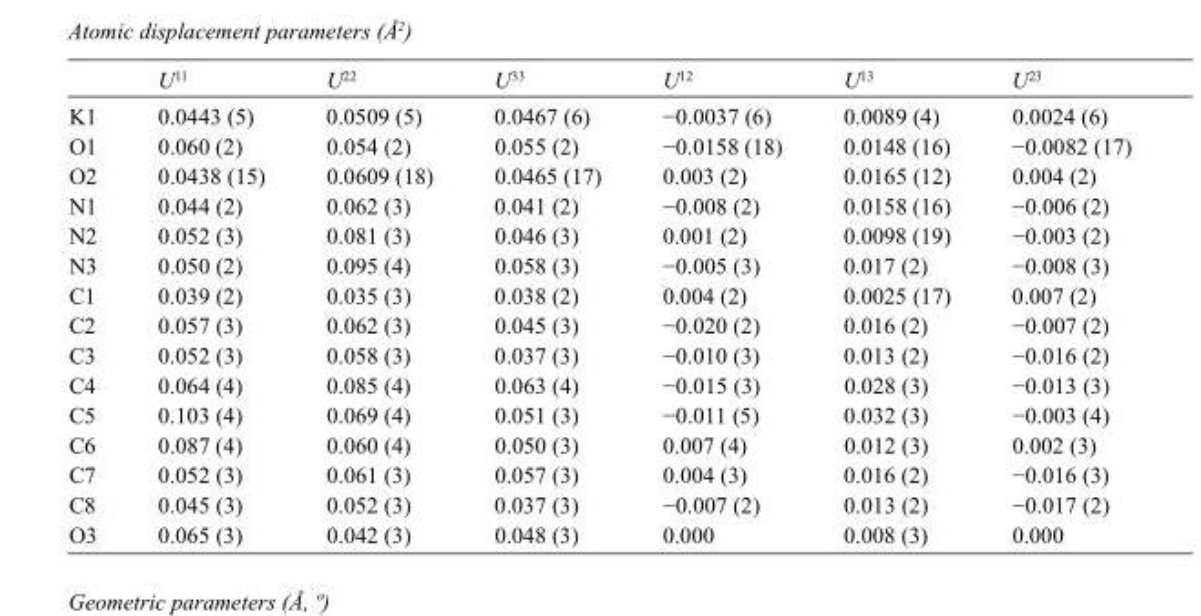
<table><thead><tr><td></td><td>U<sup>11</sup></td><td>U<sup>22</sup></td><td>U<sup>33</sup></td><td>U<sup>12</sup></td><td>U<sup>13</sup></td><td>U<sup>23</sup></td></tr></thead><tbody><tr><td>K1</td><td>0.0443 (5)</td><td>0.0509 (5)</td><td>0.0467 (6)</td><td>−0.0037 (6)</td><td>0.0089 (4)</td><td>0.0024 (6)</td></tr><tr><td>O1</td><td>0.060 (2)</td><td>0.054 (2)</td><td>0.055 (2)</td><td>−0.0158 (18)</td><td>0.0148 (16)</td><td>−0.0082 (17)</td></tr><tr><td>O2</td><td>0.0438 (15)</td><td>0.0609 (18)</td><td>0.0465 (17)</td><td>0.003 (2)</td><td>0.0165 (12)</td><td>0.004 (2)</td></tr><tr><td>N1</td><td>0.044 (2)</td><td>0.062 (3)</td><td>0.041 (2)</td><td>−0.008 (2)</td><td>0.0158 (16)</td><td>−0.006 (2)</td></tr><tr><td>N2</td><td>0.052 (3)</td><td>0.081 (3)</td><td>0.046 (3)</td><td>0.001 (2)</td><td>0.0098 (19)</td><td>−0.003 (2)</td></tr><tr><td>N3</td><td>0.050 (2)</td><td>0.095 (4)</td><td>0.058 (3)</td><td>−0.005 (3)</td><td>0.017 (2)</td><td>−0.008 (3)</td></tr><tr><td>C1</td><td>0.039 (2)</td><td>0.035 (3)</td><td>0.038 (2)</td><td>0.004 (2)</td><td>0.0025 (17)</td><td>0.007 (2)</td></tr><tr><td>C2</td><td>0.057 (3)</td><td>0.062 (3)</td><td>0.045 (3)</td><td>−0.020 (2)</td><td>0.016 (2)</td><td>−0.007 (2)</td></tr><tr><td>C3</td><td>0.052 (3)</td><td>0.058 (3)</td><td>0.037 (3)</td><td>−0.010 (3)</td><td>0.013 (2)</td><td>−0.016 (2)</td></tr><tr><td>C4</td><td>0.064 (4)</td><td>0.085 (4)</td><td>0.063 (4)</td><td>−0.015 (3)</td><td>0.028 (3)</td><td>−0.013 (3)</td></tr><tr><td>C5</td><td>0.103 (4)</td><td>0.069 (4)</td><td>0.051 (3)</td><td>−0.011 (5)</td><td>0.032 (3)</td><td>−0.003 (4)</td></tr><tr><td>C6</td><td>0.087 (4)</td><td>0.060 (4)</td><td>0.050 (3)</td><td>0.007 (4)</td><td>0.012 (3)</td><td>0.002 (3)</td></tr><tr><td>C7</td><td>0.052 (3)</td><td>0.061 (3)</td><td>0.057 (3)</td><td>0.004 (3)</td><td>0.016 (2)</td><td>−0.016 (3)</td></tr><tr><td>C8</td><td>0.045 (3)</td><td>0.052 (3)</td><td>0.037 (3)</td><td>−0.007 (2)</td><td>0.013 (2)</td><td>−0.017 (2)</td></tr><tr><td>O3</td><td>0.065 (3)</td><td>0.042 (3)</td><td>0.048 (3)</td><td>0.000</td><td>0.008 (3)</td><td>0.000</td></tr></tbody></table>